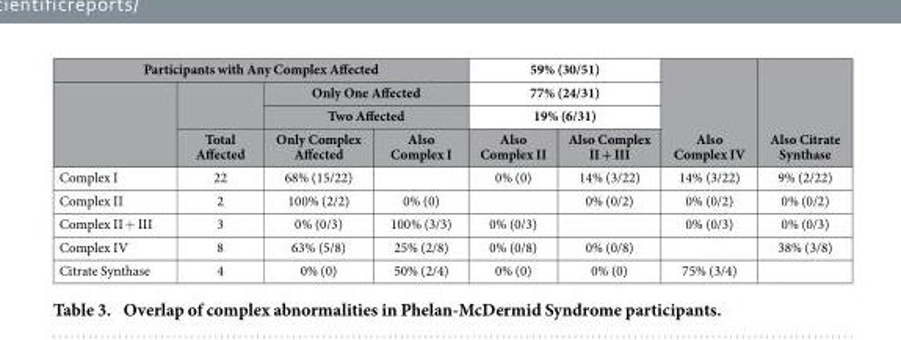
<table><thead><tr><td colspan="4">Participants with Any Complex Affected</td><td rowspan="3" colspan="2">59% (30/51) 77% (24/31) 19% (6/31)</td><td rowspan="4">Also Complex IV</td><td rowspan="4">Also Citrate Synthase</td></tr><tr><td rowspan="3"></td><td rowspan="3">Total Affected</td><td rowspan="2" colspan="2">Only One Affected Two Affected</td></tr><tr></tr><tr><td>Only Complex Affected</td><td>Also Complex I</td><td>Also Complex II</td><td>Also Complex II + III</td></tr></thead><tbody><tr><td>Complex I</td><td>22</td><td>68% (15/22)</td><td></td><td>0% (0)</td><td>14% (3/22)</td><td>14% (3/22)</td><td>9% (2/22)</td></tr><tr><td>Complex II</td><td>2</td><td>100% (2/2)</td><td>0% (0)</td><td></td><td>0% (0/2)</td><td>0% (0/2)</td><td>0% (0/2)</td></tr><tr><td>Complex II + III</td><td>3</td><td>0% (0/3)</td><td>100% (3/3)</td><td>0% (0/3)</td><td></td><td>0% (0/3)</td><td>0% (0/3)</td></tr><tr><td>Complex IV</td><td>8</td><td>63% (5/8)</td><td>25% (2/8)</td><td>0% (0/8)</td><td>0% (0/8)</td><td></td><td>38% (3/8)</td></tr><tr><td>Citrate Synthase</td><td>4</td><td>0% (0)</td><td>50% (2/4)</td><td>0% (0)</td><td>0% (0)</td><td>75% (3/4)</td><td></td></tr></tbody></table>